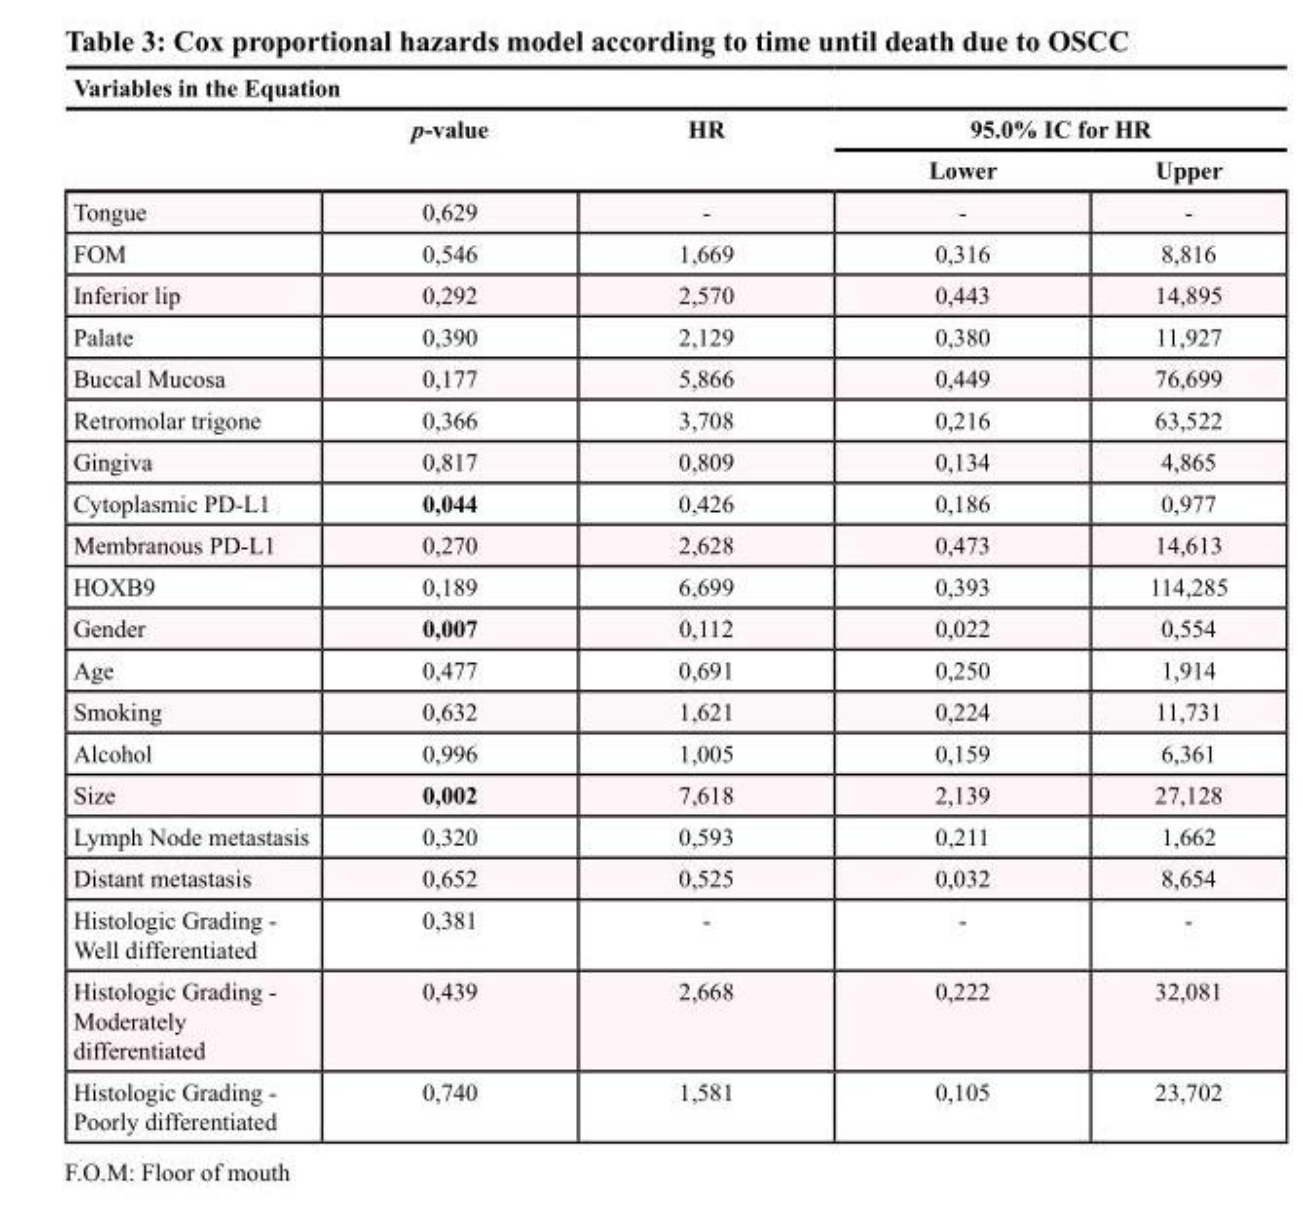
<table><thead><tr><td colspan="5">Variables in the Equation</td></tr><tr><td rowspan="2"></td><td rowspan="2">p-value</td><td rowspan="2">HR</td><td colspan="2">95.0% IC for HR</td></tr><tr><td>Lower</td><td>Upper</td></tr></thead><tbody><tr><td>Tongue</td><td>0,629</td><td>-</td><td>-</td><td>-</td></tr><tr><td>FOM</td><td>0,546</td><td>1,669</td><td>0,316</td><td>8,816</td></tr><tr><td>Inferior lip</td><td>0,292</td><td>2,570</td><td>0,443</td><td>14,895</td></tr><tr><td>Palate</td><td>0,390</td><td>2,129</td><td>0,380</td><td>11,927</td></tr><tr><td>Buccal Mucosa</td><td>0,177</td><td>5,866</td><td>0,449</td><td>76,699</td></tr><tr><td>Retromolar trigone</td><td>0,366</td><td>3,708</td><td>0,216</td><td>63,522</td></tr><tr><td>Gingiva</td><td>0,817</td><td>0,809</td><td>0,134</td><td>4,865</td></tr><tr><td>Cytoplasmic PD-L1</td><td>0,044</td><td>0,426</td><td>0,186</td><td>0,977</td></tr><tr><td>Membranous PD-L1</td><td>0,270</td><td>2,628</td><td>0,473</td><td>14,613</td></tr><tr><td>HOXB9</td><td>0,189</td><td>6,699</td><td>0,393</td><td>114,285</td></tr><tr><td>Gender</td><td>0,007</td><td>0,112</td><td>0,022</td><td>0,554</td></tr><tr><td>Age</td><td>0,477</td><td>0,691</td><td>0,250</td><td>1,914</td></tr><tr><td>Smoking</td><td>0,632</td><td>1,621</td><td>0,224</td><td>11,731</td></tr><tr><td>Alcohol</td><td>0,996</td><td>1,005</td><td>0,159</td><td>6,361</td></tr><tr><td>Size</td><td>0,002</td><td>7,618</td><td>2,139</td><td>27,128</td></tr><tr><td>Lymph Node metastasis</td><td>0,320</td><td>0,593</td><td>0,211</td><td>1,662</td></tr><tr><td>Distant metastasis</td><td>0,652</td><td>0,525</td><td>0,032</td><td>8,654</td></tr><tr><td>Histologic Grading - Well differentiated</td><td>0,381</td><td>-</td><td>-</td><td>-</td></tr><tr><td>Histologic Grading - Moderately differentiated</td><td>0,439</td><td>2,668</td><td>0,222</td><td>32,081</td></tr><tr><td>Histologic Grading - Poorly differentiated</td><td>0,740</td><td>1,581</td><td>0,105</td><td>23,702</td></tr></tbody></table>